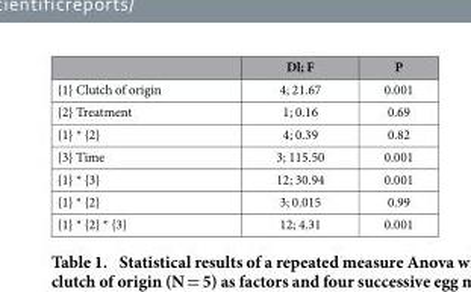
<table><thead><tr><td></td><td>Dl; F</td><td>P</td></tr></thead><tbody><tr><td>{1} Clutch of origin</td><td>4; 21.67</td><td>0.001</td></tr><tr><td>{2} Treatment</td><td>1; 0.16</td><td>0.69</td></tr><tr><td>{1} * {2}</td><td>4; 0.39</td><td>0.82</td></tr><tr><td>{3} Time</td><td>3; 115.50</td><td>0.001</td></tr><tr><td>{1} * {3}</td><td>12; 30.94</td><td>0.001</td></tr><tr><td>{1} * {2}</td><td>3; 0.015</td><td>0.99</td></tr><tr><td>{1} * {2} * {3}</td><td>12; 4.31</td><td>0.001</td></tr></tbody></table>